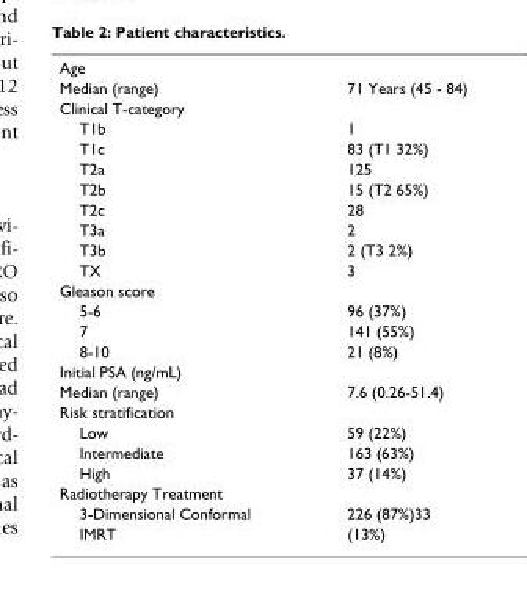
<table><tbody><tr><td colspan="2">Age</td></tr><tr><td>Median (range)</td><td>71 Years (45 - 84)</td></tr><tr><td colspan="2">Clinical T-category</td></tr><tr><td>T1b</td><td>1</td></tr><tr><td>T1c</td><td>83 (T1 32%)</td></tr><tr><td>T2a</td><td>125</td></tr><tr><td>T2b</td><td>15 (T2 65%)</td></tr><tr><td>T2c</td><td>28</td></tr><tr><td>T3a</td><td>2</td></tr><tr><td>T3b</td><td>2 (T3 2%)</td></tr><tr><td>TX</td><td>3</td></tr><tr><td colspan="2">Gleason score</td></tr><tr><td>5-6</td><td>96 (37%)</td></tr><tr><td>7</td><td>141 (55%)</td></tr><tr><td>8-10</td><td>21 (8%)</td></tr><tr><td colspan="2">Initial PSA (ng/mL)</td></tr><tr><td>Median (range)</td><td>7.6 (0.26-51.4)</td></tr><tr><td colspan="2">Risk stratification</td></tr><tr><td>Low</td><td>59 (22%)</td></tr><tr><td>Intermediate</td><td>163 (63%)</td></tr><tr><td>High</td><td>37 (14%)</td></tr><tr><td colspan="2">Radiotherapy Treatment</td></tr><tr><td>3-Dimensional Conformal</td><td>226 (87%)33</td></tr><tr><td>IMRT</td><td>(13%)</td></tr></tbody></table>